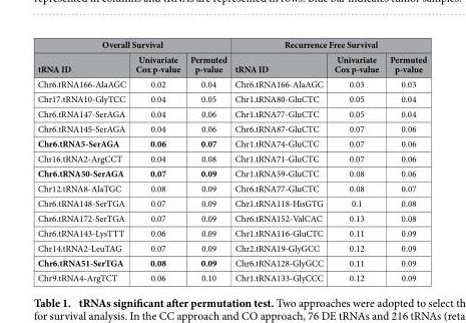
<table><thead><tr><td colspan="3">Overall Survival</td><td colspan="3">Recurrence Free Survival</td></tr><tr><td>tRNA ID</td><td>Univariate Cox p-value</td><td>Permuted p-value</td><td>tRNA ID</td><td>Univariate Cox p-value</td><td>Permuted p-value</td></tr></thead><tbody><tr><td>Chr6.tRNA166-AlaAGC</td><td>0.02</td><td>0.04</td><td>Chr6.tRNA166-AlaAGC</td><td>0.03</td><td>0.03</td></tr><tr><td>Chr17.tRNA10-GlyTCC</td><td>0.04</td><td>0.05</td><td>Chr1.tRNA80-GluCTC</td><td>0.05</td><td>0.04</td></tr><tr><td>Chr6.tRNA147-SerAGA</td><td>0.04</td><td>0.06</td><td>Chr1.tRNA77-GluCTC</td><td>0.05</td><td>0.04</td></tr><tr><td>Chr6.tRNA145-SerAGA</td><td>0.04</td><td>0.06</td><td>Chr6.tRNA87-GluCTC</td><td>0.07</td><td>0.06</td></tr><tr><td>Chr6.tRNA5-SerAGA</td><td>0.06</td><td>0.07</td><td>Chr1.tRNA74-GluCTC</td><td>0.07</td><td>0.06</td></tr><tr><td>Chr16.tRNA2-ArgCCT</td><td>0.04</td><td>0.08</td><td>Chr1.tRNA71-GluCTC</td><td>0.07</td><td>0.06</td></tr><tr><td>Chr6.tRNA50-SerAGA</td><td>0.07</td><td>0.09</td><td>Chr1.tRNA59-GluCTC</td><td>0.08</td><td>0.06</td></tr><tr><td>Chr12.tRNA8-AlaTGC</td><td>0.08</td><td>0.09</td><td>Chr6.tRNA77-GluCTC</td><td>0.08</td><td>0.07</td></tr><tr><td>Chr6.tRNA148-SerTGA</td><td>0.07</td><td>0.09</td><td>Chr1.tRNA118-HisGTG</td><td>0.1</td><td>0.08</td></tr><tr><td>Chr6.tRNA172-SerTGA</td><td>0.07</td><td>0.09</td><td>Chr6.tRNA152-ValCAC</td><td>0.13</td><td>0.08</td></tr><tr><td>Chr6.tRNA143-LysTTT</td><td>0.06</td><td>0.09</td><td>Chr1.tRNA116-GluCTC</td><td>0.11</td><td>0.09</td></tr><tr><td>Chr14.tRNA2-LeuTAG</td><td>0.07</td><td>0.09</td><td>Chr2.tRNA19-GlyGCC</td><td>0.12</td><td>0.09</td></tr><tr><td>Chr6.tRNA51-SerTGA</td><td>0.08</td><td>0.09</td><td>Chr6.tRNA128-GlyGCC</td><td>0.11</td><td>0.09</td></tr><tr><td>Chr9.tRNA4-ArgTCT</td><td>0.06</td><td>0.10</td><td>Chr1.tRNA133-GlyCCC</td><td>0.12</td><td>0.09</td></tr></tbody></table>